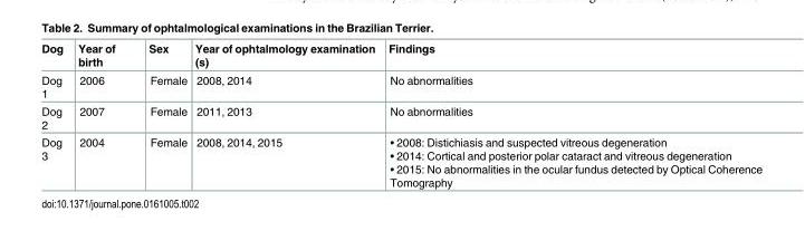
<table><thead><tr><td>Dog</td><td>Year of birth</td><td>Sex</td><td>Year of ophtalmology examination (s)</td><td>Findings</td></tr></thead><tbody><tr><td>Dog 1</td><td>2006</td><td>Female</td><td>2008, 2014</td><td>No abnormalities</td></tr><tr><td>Dog 2</td><td>2007</td><td>Female</td><td>2011, 2013</td><td>No abnormalities</td></tr><tr><td>Dog 3</td><td>2004</td><td>Female</td><td>2008, 2014, 2015</td><td>• 2008: Distichiasis and suspected vitreous degeneration • 2014: Cortical and posterior polar cataract and vitreous degeneration • 2015: No abnormalities in the ocular fundus detected by Optical Coherence Tomography</td></tr></tbody></table>